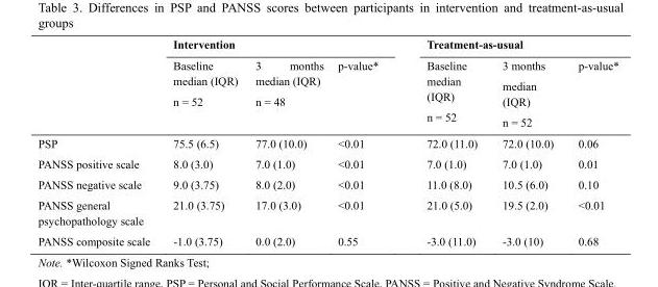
<table><thead><tr><td rowspan="2"></td><td colspan="3">Intervention</td><td colspan="3">Treatment-as-usual</td></tr><tr><td>Baseline median (IQR) n = 52</td><td>3 months median (IQR) n = 48</td><td>p-value*</td><td>Baseline median (IQR) n = 52</td><td>3 months median (IQR) n = 52</td><td>p-value*</td></tr></thead><tbody><tr><td>PSP</td><td>75.5 (6.5)</td><td>77.0 (10.0)</td><td>&lt;0.01</td><td>72.0 (11.0)</td><td>72.0 (10.0)</td><td>0.06</td></tr><tr><td>PANSS positive scale</td><td>8.0 (3.0)</td><td>7.0 (1.0)</td><td>&lt;0.01</td><td>7.0 (1.0)</td><td>7.0 (1.0)</td><td>0.01</td></tr><tr><td>PANSS negative scale</td><td>9.0 (3.75)</td><td>8.0 (2.0)</td><td>&lt;0.01</td><td>11.0 (8.0)</td><td>10.5 (6.0)</td><td>0.10</td></tr><tr><td>PANSS general psychopathology scale</td><td>21.0 (3.75)</td><td>17.0 (3.0)</td><td>&lt;0.01</td><td>21.0 (5.0)</td><td>19.5 (2.0)</td><td>&lt;0.01</td></tr><tr><td>PANSS composite scale</td><td>-1.0 (3.75)</td><td>0.0 (2.0)</td><td>0.55</td><td>-3.0 (11.0)</td><td>-3.0 (10)</td><td>0.68</td></tr></tbody></table>